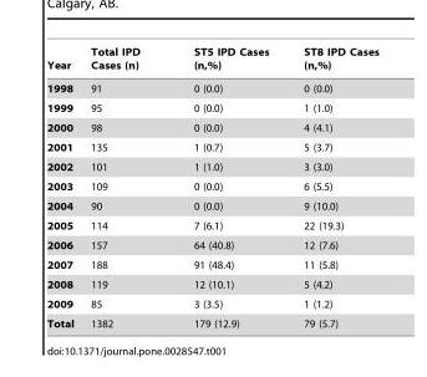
<table><thead><tr><td>Year</td><td>Total IPD Cases (n)</td><td>ST5 IPD Cases (n,%)</td><td>ST8 IPD Cases (n,%)</td></tr></thead><tbody><tr><td>1998</td><td>91</td><td>0 (0.0)</td><td>0 (0.0)</td></tr><tr><td>1999</td><td>95</td><td>0 (0.0)</td><td>1 (1.0)</td></tr><tr><td>2000</td><td>98</td><td>0 (0.0)</td><td>4 (4.1)</td></tr><tr><td>2001</td><td>135</td><td>1 (0.7)</td><td>5 (3.7)</td></tr><tr><td>2002</td><td>101</td><td>1 (1.0)</td><td>3 (3.0)</td></tr><tr><td>2003</td><td>109</td><td>0 (0.0)</td><td>6 (5.5)</td></tr><tr><td>2004</td><td>90</td><td>0 (0.0)</td><td>9 (10.0)</td></tr><tr><td>2005</td><td>114</td><td>7 (6.1)</td><td>22 (19.3)</td></tr><tr><td>2006</td><td>157</td><td>64 (40.8)</td><td>12 (7.6)</td></tr><tr><td>2007</td><td>188</td><td>91 (48.4)</td><td>11 (5.8)</td></tr><tr><td>2008</td><td>119</td><td>12 (10.1)</td><td>5 (4.2)</td></tr><tr><td>2009</td><td>85</td><td>3 (3.5)</td><td>1 (1.2)</td></tr><tr><td>Total</td><td>1382</td><td>179 (12.9)</td><td>79 (5.7)</td></tr></tbody></table>